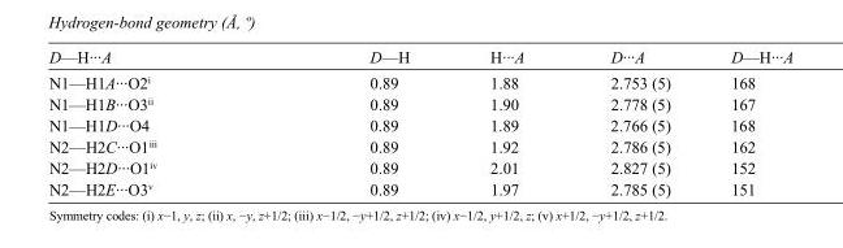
<table><tbody><tr><td>D—H···A</td><td>D—H</td><td>H···A</td><td>D···A</td><td>D—H···A</td></tr><tr><td>N1—H1A···O2<sup>i</sup></td><td>0.89</td><td>1.88</td><td>2.753 (5)</td><td>168</td></tr><tr><td>N1—H1B···O3<sup>ii</sup></td><td>0.89</td><td>1.90</td><td>2.778 (5)</td><td>167</td></tr><tr><td>N1—H1D···O4</td><td>0.89</td><td>1.89</td><td>2.766 (5)</td><td>168</td></tr><tr><td>N2—H2C···O1<sup>iii</sup></td><td>0.89</td><td>1.92</td><td>2.786 (5)</td><td>162</td></tr><tr><td>N2—H2D···O1<sup>iv</sup></td><td>0.89</td><td>2.01</td><td>2.827 (5)</td><td>152</td></tr><tr><td>N2—H2E···O3<sup>v</sup></td><td>0.89</td><td>1.97</td><td>2.785 (5)</td><td>151</td></tr></tbody></table>